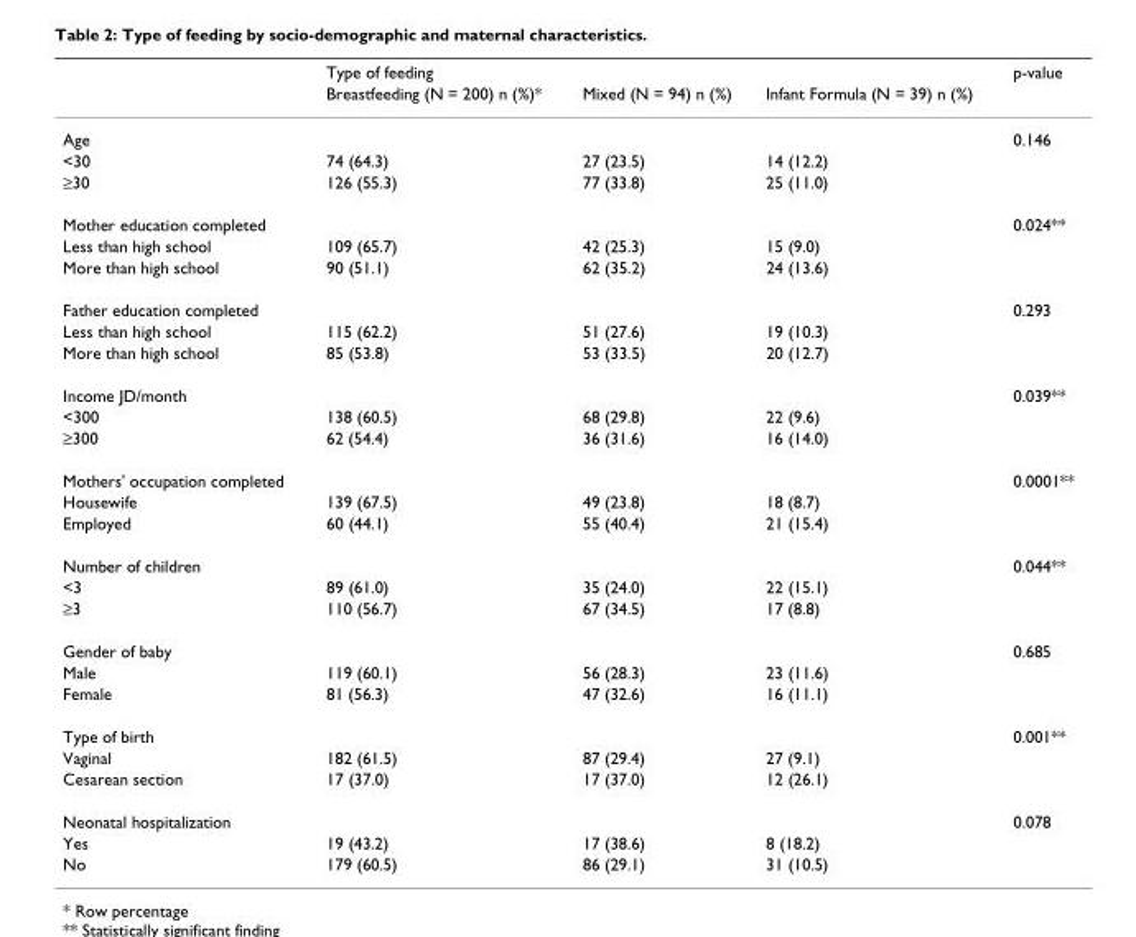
<table><thead><tr><td rowspan="2"></td><td colspan="2">Type of feeding</td><td rowspan="2">Infant Formula (N = 39) n (%)</td><td rowspan="2">p-value</td></tr><tr><td>Breastfeeding (N = 200) n (%)*</td><td>Mixed (N = 94) n (%)</td></tr></thead><tbody><tr><td>Age</td><td></td><td></td><td></td><td>0.146</td></tr><tr><td>&lt;30</td><td>74 (64.3)</td><td>27 (23.5)</td><td>14 (12.2)</td><td></td></tr><tr><td>≥30</td><td>126 (55.3)</td><td>77 (33.8)</td><td>25 (11.0)</td><td></td></tr><tr><td>Mother education completed</td><td></td><td></td><td></td><td>0.024**</td></tr><tr><td>Less than high school</td><td>109 (65.7)</td><td>42 (25.3)</td><td>15 (9.0)</td><td></td></tr><tr><td>More than high school</td><td>90 (51.1)</td><td>62 (35.2)</td><td>24 (13.6)</td><td></td></tr><tr><td>Father education completed</td><td></td><td></td><td></td><td>0.293</td></tr><tr><td>Less than high school</td><td>115 (62.2)</td><td>51 (27.6)</td><td>19 (10.3)</td><td></td></tr><tr><td>More than high school</td><td>85 (53.8)</td><td>53 (33.5)</td><td>20 (12.7)</td><td></td></tr><tr><td>Income JD/month</td><td></td><td></td><td></td><td>0.039**</td></tr><tr><td>&lt;300</td><td>138 (60.5)</td><td>68 (29.8)</td><td>22 (9.6)</td><td></td></tr><tr><td>≥300</td><td>62 (54.4)</td><td>36 (31.6)</td><td>16 (14.0)</td><td></td></tr><tr><td>Mothers&#x27; occupation completed</td><td></td><td></td><td></td><td>0.0001**</td></tr><tr><td>Housewife</td><td>139 (67.5)</td><td>49 (23.8)</td><td>18 (8.7)</td><td></td></tr><tr><td>Employed</td><td>60 (44.1)</td><td>55 (40.4)</td><td>21 (15.4)</td><td></td></tr><tr><td>Number of children</td><td></td><td></td><td></td><td>0.044**</td></tr><tr><td>&lt;3</td><td>89 (61.0)</td><td>35 (24.0)</td><td>22 (15.1)</td><td></td></tr><tr><td>≥3</td><td>110 (56.7)</td><td>67 (34.5)</td><td>17 (8.8)</td><td></td></tr><tr><td>Gender of baby</td><td></td><td></td><td></td><td>0.685</td></tr><tr><td>Male</td><td>119 (60.1)</td><td>56 (28.3)</td><td>23 (11.6)</td><td></td></tr><tr><td>Female</td><td>81 (56.3)</td><td>47 (32.6)</td><td>16 (11.1)</td><td></td></tr><tr><td>Type of birth</td><td></td><td></td><td></td><td>0.001**</td></tr><tr><td>Vaginal</td><td>182 (61.5)</td><td>87 (29.4)</td><td>27 (9.1)</td><td></td></tr><tr><td>Cesarean section</td><td>17 (37.0)</td><td>17 (37.0)</td><td>12 (26.1)</td><td></td></tr><tr><td>Neonatal hospitalization</td><td></td><td></td><td></td><td>0.078</td></tr><tr><td>Yes</td><td>19 (43.2)</td><td>17 (38.6)</td><td>8 (18.2)</td><td></td></tr><tr><td>No</td><td>179 (60.5)</td><td>86 (29.1)</td><td>31 (10.5)</td><td></td></tr></tbody></table>